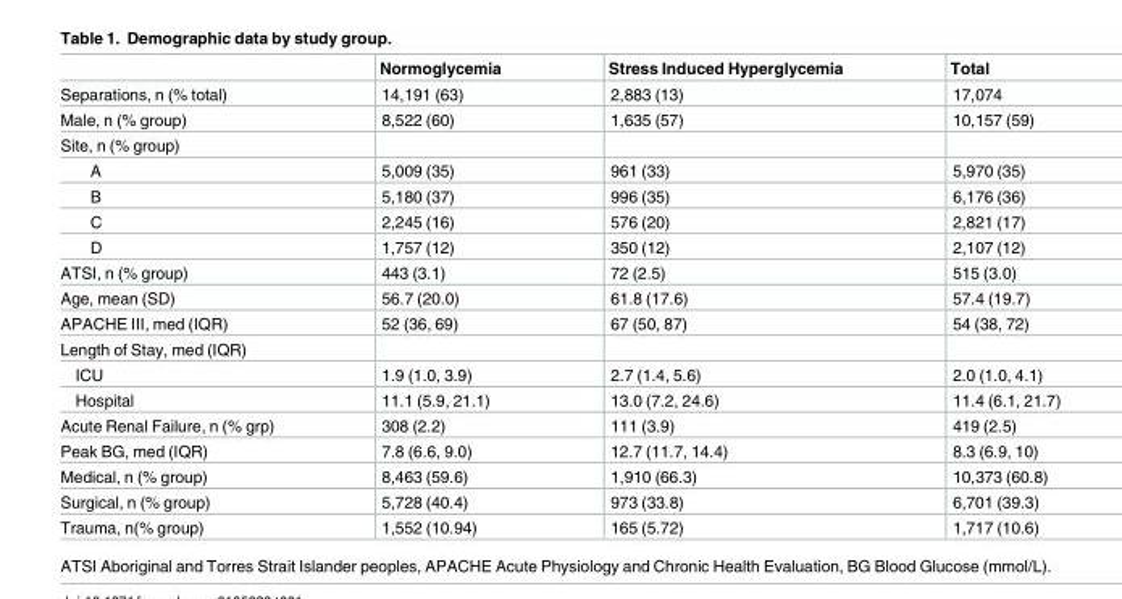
<table><thead><tr><td></td><td>Normoglycemia</td><td>Stress Induced Hyperglycemia</td><td>Total</td></tr></thead><tbody><tr><td>Separations, n (% total)</td><td>14,191 (63)</td><td>2,883 (13)</td><td>17,074</td></tr><tr><td>Male, n (% group)</td><td>8,522 (60)</td><td>1,635 (57)</td><td>10,157 (59)</td></tr><tr><td colspan="4">Site, n (% group)</td></tr><tr><td>A</td><td>5,009 (35)</td><td>961 (33)</td><td>5,970 (35)</td></tr><tr><td>B</td><td>5,180 (37)</td><td>996 (35)</td><td>6,176 (36)</td></tr><tr><td>C</td><td>2,245 (16)</td><td>576 (20)</td><td>2,821 (17)</td></tr><tr><td>D</td><td>1,757 (12)</td><td>350 (12)</td><td>2,107 (12)</td></tr><tr><td>ATSI, n (% group)</td><td>443 (3.1)</td><td>72 (2.5)</td><td>515 (3.0)</td></tr><tr><td>Age, mean (SD)</td><td>56.7 (20.0)</td><td>61.8 (17.6)</td><td>57.4 (19.7)</td></tr><tr><td>APACHE III, med (IQR)</td><td>52 (36, 69)</td><td>67 (50, 87)</td><td>54 (38, 72)</td></tr><tr><td colspan="4">Length of Stay, med (IQR)</td></tr><tr><td>ICU</td><td>1.9 (1.0, 3.9)</td><td>2.7 (1.4, 5.6)</td><td>2.0 (1.0, 4.1)</td></tr><tr><td>Hospital</td><td>11.1 (5.9, 21.1)</td><td>13.0 (7.2, 24.6)</td><td>11.4 (6.1, 21.7)</td></tr><tr><td>Acute Renal Failure, n (% grp)</td><td>308 (2.2)</td><td>111 (3.9)</td><td>419 (2.5)</td></tr><tr><td>Peak BG, med (IQR)</td><td>7.8 (6.6, 9.0)</td><td>12.7 (11.7, 14.4)</td><td>8.3 (6.9, 10)</td></tr><tr><td>Medical, n (% group)</td><td>8,463 (59.6)</td><td>1,910 (66.3)</td><td>10,373 (60.8)</td></tr><tr><td>Surgical, n (% group)</td><td>5,728 (40.4)</td><td>973 (33.8)</td><td>6,701 (39.3)</td></tr><tr><td>Trauma, n(% group)</td><td>1,552 (10.94)</td><td>165 (5.72)</td><td>1,717 (10.6)</td></tr></tbody></table>